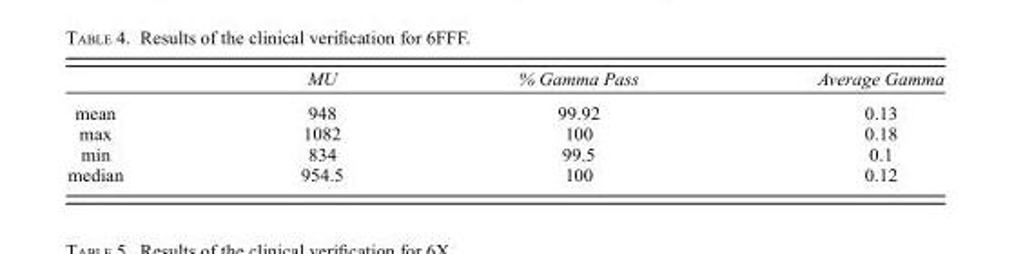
<table><thead><tr><td></td><td>MU</td><td>% Gamma Pass</td><td>Average Gamma</td></tr></thead><tbody><tr><td>mean</td><td>948</td><td>99.92</td><td>0.13</td></tr><tr><td>max</td><td>1082</td><td>100</td><td>0.18</td></tr><tr><td>min</td><td>834</td><td>99.5</td><td>0.1</td></tr><tr><td>median</td><td>954.5</td><td>100</td><td>0.12</td></tr></tbody></table>